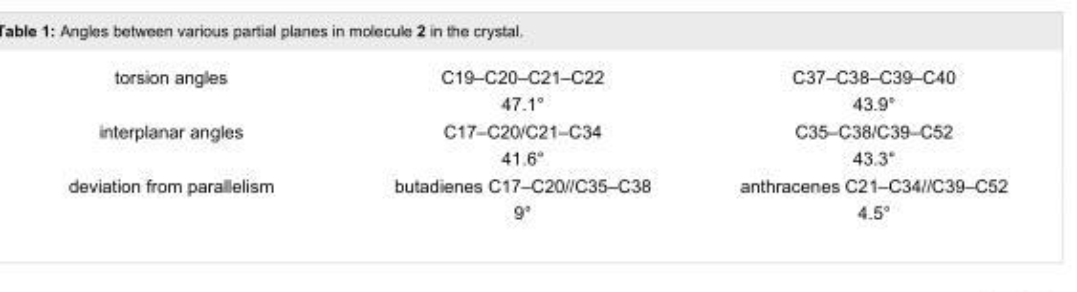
<table><tbody><tr><td rowspan="2">torsion angles</td><td>C19–C20–C21–C22</td><td>C37–C38–C39–C40</td></tr><tr><td>47.1°</td><td>43.9°</td></tr><tr><td rowspan="2">interplanar angles</td><td>C17–C20/C21–C34</td><td>C35–C38/C39–C52</td></tr><tr><td>41.6°</td><td>43.3°</td></tr><tr><td rowspan="2">deviation from parallelism</td><td>butadienes C17–C20//C35–C38</td><td>anthracenes C21–C34//C39–C52</td></tr><tr><td>9°</td><td>4.5°</td></tr></tbody></table>